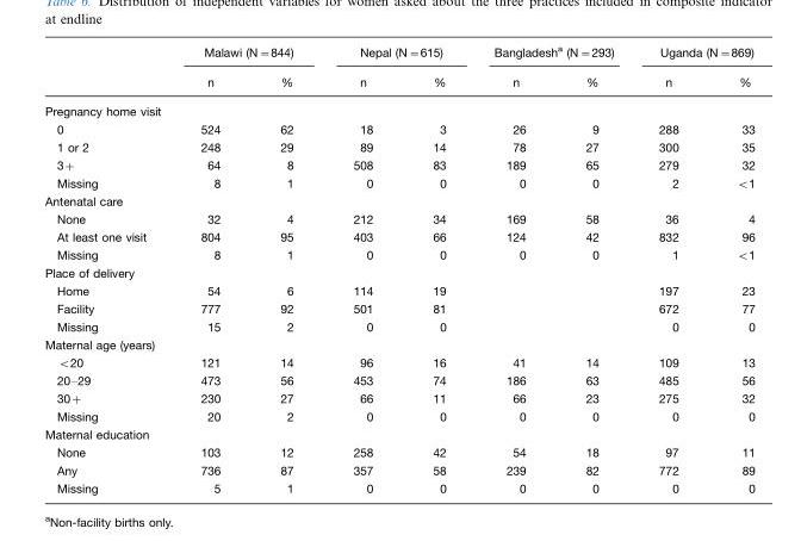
<table><thead><tr><td rowspan="2"></td><td colspan="2">Malawi (N=844)</td><td colspan="2">Nepal (N=615)</td><td colspan="2">Bangladesha (N=293)</td><td colspan="2">Uganda (N=869)</td></tr><tr><td>n</td><td>%</td><td>n</td><td>%</td><td>n</td><td>%</td><td>n</td><td>%</td></tr></thead><tbody><tr><td colspan="9">Pregnancy home visit</td></tr><tr><td>0</td><td>524</td><td>62</td><td>18</td><td>3</td><td>26</td><td>9</td><td>288</td><td>33</td></tr><tr><td>1 or 2</td><td>248</td><td>29</td><td>89</td><td>14</td><td>78</td><td>27</td><td>300</td><td>35</td></tr><tr><td>3+</td><td>64</td><td>8</td><td>508</td><td>83</td><td>189</td><td>65</td><td>279</td><td>32</td></tr><tr><td>Missing</td><td>8</td><td>1</td><td>0</td><td>0</td><td>0</td><td>0</td><td>2</td><td>&lt;1</td></tr><tr><td colspan="9">Antenatal care</td></tr><tr><td>None</td><td>32</td><td>4</td><td>212</td><td>34</td><td>169</td><td>58</td><td>36</td><td>4</td></tr><tr><td>At least one visit</td><td>804</td><td>95</td><td>403</td><td>66</td><td>124</td><td>42</td><td>832</td><td>96</td></tr><tr><td>Missing</td><td>8</td><td>1</td><td>0</td><td>0</td><td>0</td><td>0</td><td>1</td><td>&lt;1</td></tr><tr><td colspan="9">Place of delivery</td></tr><tr><td>Home</td><td>54</td><td>6</td><td>114</td><td>19</td><td></td><td></td><td>197</td><td>23</td></tr><tr><td>Facility</td><td>777</td><td>92</td><td>501</td><td>81</td><td></td><td></td><td>672</td><td>77</td></tr><tr><td>Missing</td><td>15</td><td>2</td><td>0</td><td>0</td><td></td><td></td><td>0</td><td>0</td></tr><tr><td colspan="9">Maternal age (years)</td></tr><tr><td>&lt;20</td><td>121</td><td>14</td><td>96</td><td>16</td><td>41</td><td>14</td><td>109</td><td>13</td></tr><tr><td>20–29</td><td>473</td><td>56</td><td>453</td><td>74</td><td>186</td><td>63</td><td>485</td><td>56</td></tr><tr><td>30+</td><td>230</td><td>27</td><td>66</td><td>11</td><td>66</td><td>23</td><td>275</td><td>32</td></tr><tr><td>Missing</td><td>20</td><td>2</td><td>0</td><td>0</td><td>0</td><td>0</td><td>0</td><td>0</td></tr><tr><td colspan="9">Maternal education</td></tr><tr><td>None</td><td>103</td><td>12</td><td>258</td><td>42</td><td>54</td><td>18</td><td>97</td><td>11</td></tr><tr><td>Any</td><td>736</td><td>87</td><td>357</td><td>58</td><td>239</td><td>82</td><td>772</td><td>89</td></tr><tr><td>Missing</td><td>5</td><td>1</td><td>0</td><td>0</td><td>0</td><td>0</td><td>0</td><td>0</td></tr></tbody></table>